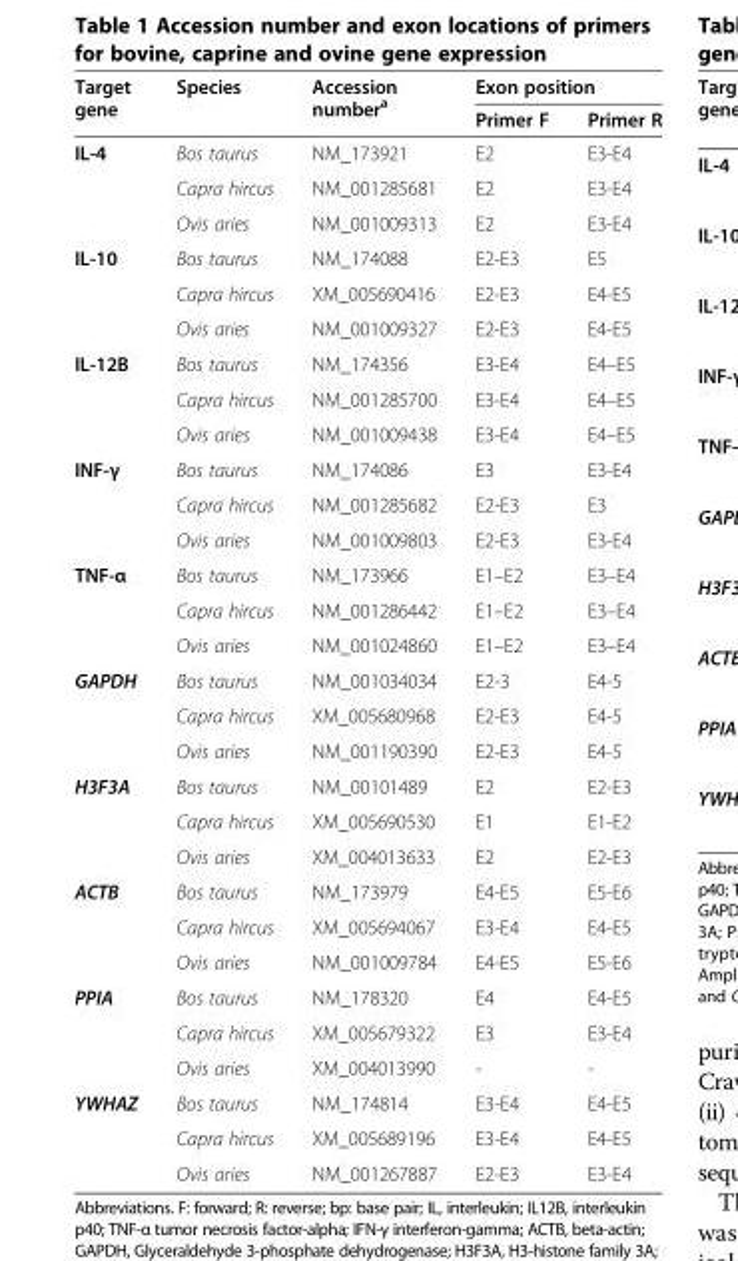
<table><thead><tr><td rowspan="2">Target gene</td><td rowspan="2">Species</td><td rowspan="2">Accession number<sup>a</sup></td><td colspan="2">Exon position</td></tr><tr><td>Primer F</td><td>Primer R</td></tr></thead><tbody><tr><td rowspan="3">IL-4</td><td>Bos taurus</td><td>NM_173921</td><td>E2</td><td>E3-E4</td></tr><tr><td>Capra hircus</td><td>NM_001285681</td><td>E2</td><td>E3-E4</td></tr><tr><td>Ovis aries</td><td>NM_001009313</td><td>E2</td><td>E3-E4</td></tr><tr><td rowspan="3">IL-10</td><td>Bos taurus</td><td>NM_174088</td><td>E2-E3</td><td>E5</td></tr><tr><td>Capra hircus</td><td>XM_005690416</td><td>E2-E3</td><td>E4-E5</td></tr><tr><td>Ovis aries</td><td>NM_001009327</td><td>E2-E3</td><td>E4-E5</td></tr><tr><td rowspan="3">IL-12B</td><td>Bos taurus</td><td>NM_174356</td><td>E3-E4</td><td>E4–E5</td></tr><tr><td>Capra hircus</td><td>NM_001285700</td><td>E3-E4</td><td>E4–E5</td></tr><tr><td>Ovis aries</td><td>NM_001009438</td><td>E3-E4</td><td>E4–E5</td></tr><tr><td rowspan="3">INF-γ</td><td>Bos taurus</td><td>NM_174086</td><td>E3</td><td>E3-E4</td></tr><tr><td>Capra hircus</td><td>NM_001285682</td><td>E2-E3</td><td>E3</td></tr><tr><td>Ovis aries</td><td>NM_001009803</td><td>E2-E3</td><td>E3-E4</td></tr><tr><td rowspan="3">TNF-α</td><td>Bos taurus</td><td>NM_173966</td><td>E1–E2</td><td>E3–E4</td></tr><tr><td>Capra hircus</td><td>NM_001286442</td><td>E1–E2</td><td>E3–E4</td></tr><tr><td>Ovis aries</td><td>NM_001024860</td><td>E1–E2</td><td>E3–E4</td></tr><tr><td rowspan="3">GAPDH</td><td>Bos taurus</td><td>NM_001034034</td><td>E2-3</td><td>E4-5</td></tr><tr><td>Capra hircus</td><td>XM_005680968</td><td>E2-E3</td><td>E4-5</td></tr><tr><td>Ovis aries</td><td>NM_001190390</td><td>E2-E3</td><td>E4-5</td></tr><tr><td rowspan="3">H3F3A</td><td>Bos taurus</td><td>NM_00101489</td><td>E2</td><td>E2-E3</td></tr><tr><td>Capra hircus</td><td>XM_005690530</td><td>E1</td><td>E1-E2</td></tr><tr><td>Ovis aries</td><td>XM_004013633</td><td>E2</td><td>E2-E3</td></tr><tr><td rowspan="3">ACTB</td><td>Bos taurus</td><td>NM_173979</td><td>E4-E5</td><td>E5-E6</td></tr><tr><td>Capra hircus</td><td>XM_005694067</td><td>E3-E4</td><td>E4-E5</td></tr><tr><td>Ovis aries</td><td>NM_001009784</td><td>E4-E5</td><td>E5-E6</td></tr><tr><td rowspan="3">PPIA</td><td>Bos taurus</td><td>NM_178320</td><td>E4</td><td>E4-E5</td></tr><tr><td>Capra hircus</td><td>XM_005679322</td><td>E3</td><td>E3-E4</td></tr><tr><td>Ovis aries</td><td>XM_004013990</td><td>-</td><td>-</td></tr><tr><td rowspan="3">YWHAZ</td><td>Bos taurus</td><td>NM_174814</td><td>E3-E4</td><td>E4-E5</td></tr><tr><td>Capra hircus</td><td>XM_005689196</td><td>E3-E4</td><td>E4-E5</td></tr><tr><td>Ovis aries</td><td>NM_001267887</td><td>E2-E3</td><td>E3-E4</td></tr></tbody></table>